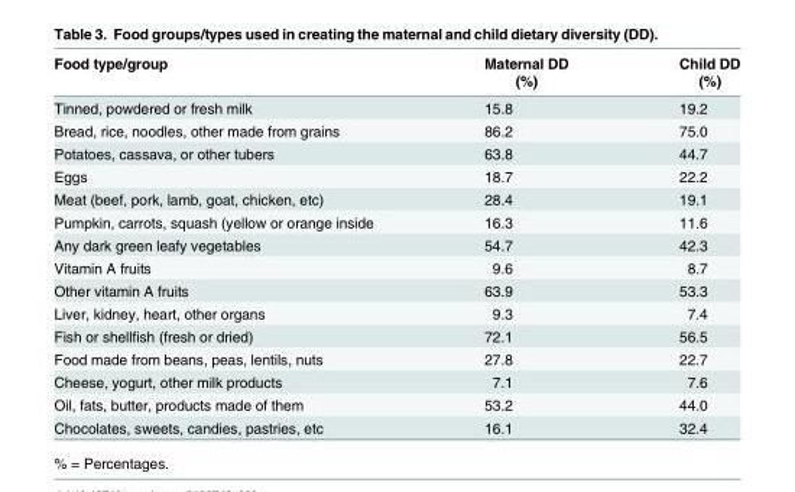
<table><thead><tr><td rowspan="2">Food type/group</td><td rowspan="2">Maternal DD (%)</td><td rowspan="2">Child DD (%)</td></tr><tr></tr></thead><tbody><tr><td>Tinned, powdered or fresh milk</td><td>15.8</td><td>19.2</td></tr><tr><td>Bread, rice, noodles, other made from grains</td><td>86.2</td><td>75.0</td></tr><tr><td>Potatoes, cassava, or other tubers</td><td>63.8</td><td>44.7</td></tr><tr><td>Eggs</td><td>18.7</td><td>22.2</td></tr><tr><td>Meat (beef, pork, lamb, goat, chicken, etc)</td><td>28.4</td><td>19.1</td></tr><tr><td>Pumpkin, carrots, squash (yellow or orange inside</td><td>16.3</td><td>11.6</td></tr><tr><td>Any dark green leafy vegetables</td><td>54.7</td><td>42.3</td></tr><tr><td>Vitamin A fruits</td><td>9.6</td><td>8.7</td></tr><tr><td>Other vitamin A fruits</td><td>63.9</td><td>53.3</td></tr><tr><td>Liver, kidney, heart, other organs</td><td>9.3</td><td>7.4</td></tr><tr><td>Fish or shellfish (fresh or dried)</td><td>72.1</td><td>56.5</td></tr><tr><td>Food made from beans, peas, lentils, nuts</td><td>27.8</td><td>22.7</td></tr><tr><td>Cheese, yogurt, other milk products</td><td>7.1</td><td>7.6</td></tr><tr><td>Oil, fats, butter, products made of them</td><td>53.2</td><td>44.0</td></tr><tr><td>Chocolates, sweets, candies, pastries, etc</td><td>16.1</td><td>32.4</td></tr></tbody></table>